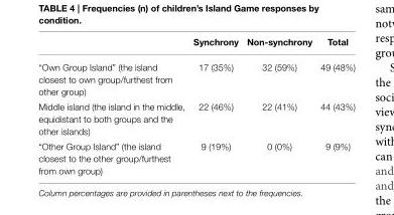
<table><thead><tr><td></td><td>Synchrony</td><td>Non-synchrony</td><td>Total</td></tr></thead><tbody><tr><td>“Own Group Island” (the island closest to own group/furthest from other group)</td><td>17 (35%)</td><td>32 (59%)</td><td>49 (48%)</td></tr><tr><td>Middle island (the island in the middle, equidistant to both groups and the other islands)</td><td>22 (46%)</td><td>22 (41%)</td><td>44 (43%)</td></tr><tr><td>“Other Group Island” (the island closest to the other group/furthest from own group)</td><td>9 (19%)</td><td>0 (0%)</td><td>9 (9%)</td></tr></tbody></table>